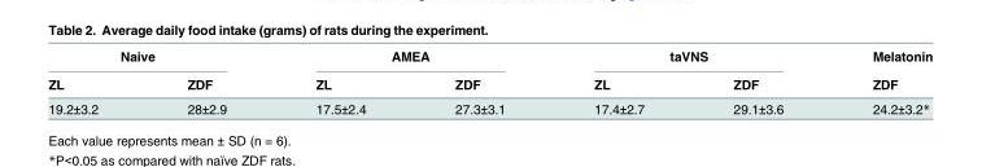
<table><thead><tr><td colspan="2">Naive</td><td colspan="2">AMEA</td><td colspan="2">taVNS</td><td rowspan="2">Melatonin ZDF</td></tr><tr><td>ZL</td><td>ZDF</td><td>ZL</td><td>ZDF</td><td>ZL</td><td>ZDF</td></tr></thead><tbody><tr><td>19.2±3.2</td><td>28±2.9</td><td>17.5±2.4</td><td>27.3±3.1</td><td>17.4±2.7</td><td>29.1±3.6</td><td>24.2±3.2*</td></tr></tbody></table>